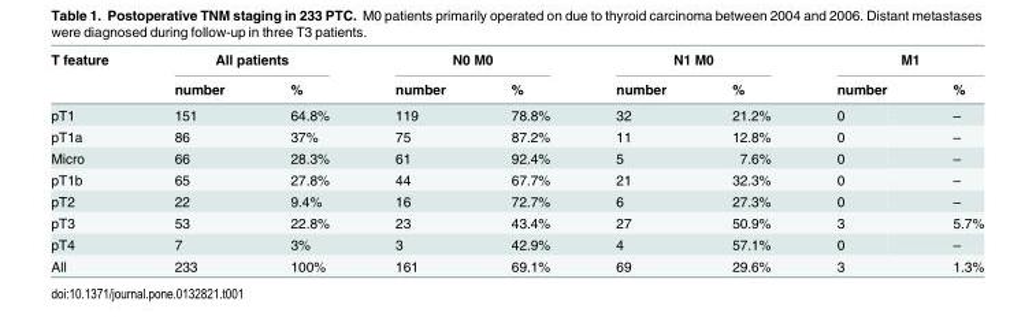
<table><thead><tr><td rowspan="2">T feature</td><td colspan="2">All patients</td><td colspan="2">N0 M0</td><td colspan="2">N1 M0</td><td colspan="2">M1</td></tr><tr><td>number</td><td>%</td><td>number</td><td>%</td><td>number</td><td>%</td><td>number</td><td>%</td></tr></thead><tbody><tr><td>pT1</td><td>151</td><td>64.8%</td><td>119</td><td>78.8%</td><td>32</td><td>21.2%</td><td>0</td><td>–</td></tr><tr><td>pT1a</td><td>86</td><td>37%</td><td>75</td><td>87.2%</td><td>11</td><td>12.8%</td><td>0</td><td>–</td></tr><tr><td>Micro</td><td>66</td><td>28.3%</td><td>61</td><td>92.4%</td><td>5</td><td>7.6%</td><td>0</td><td>–</td></tr><tr><td>pT1b</td><td>65</td><td>27.8%</td><td>44</td><td>67.7%</td><td>21</td><td>32.3%</td><td>0</td><td>–</td></tr><tr><td>pT2</td><td>22</td><td>9.4%</td><td>16</td><td>72.7%</td><td>6</td><td>27.3%</td><td>0</td><td>–</td></tr><tr><td>pT3</td><td>53</td><td>22.8%</td><td>23</td><td>43.4%</td><td>27</td><td>50.9%</td><td>3</td><td>5.7%</td></tr><tr><td>pT4</td><td>7</td><td>3%</td><td>3</td><td>42.9%</td><td>4</td><td>57.1%</td><td>0</td><td>–</td></tr><tr><td>All</td><td>233</td><td>100%</td><td>161</td><td>69.1%</td><td>69</td><td>29.6%</td><td>3</td><td>1.3%</td></tr></tbody></table>